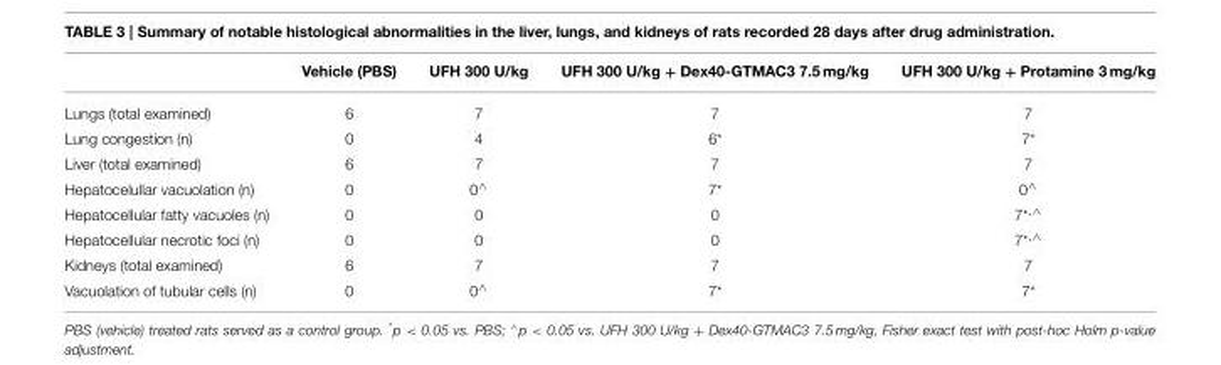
<table><thead><tr><td></td><td>Vehicle (PBS)</td><td>UFH 300 U/kg</td><td>UFH 300 U/kg + Dex40-GTMAC3 7.5 mg/kg</td><td>UFH 300 U/kg + Protamine 3 mg/kg</td></tr></thead><tbody><tr><td>Lungs (total examined)</td><td>6</td><td>7</td><td>7</td><td>7</td></tr><tr><td>Lung congestion (n)</td><td>0</td><td>4</td><td>6*</td><td>7*</td></tr><tr><td>Liver (total examined)</td><td>6</td><td>7</td><td>7</td><td>7</td></tr><tr><td>Hepatocelullar vacuolation (n)</td><td>0</td><td>0<sup>∧</sup></td><td>7*</td><td>0<sup>∧</sup></td></tr><tr><td>Hepatocellular fatty vacuoles (n)</td><td>0</td><td>0</td><td>0</td><td>7<sup>*,∧</sup></td></tr><tr><td>Hepatocellular necrotic foci (n)</td><td>0</td><td>0</td><td>0</td><td>7<sup>*,∧</sup></td></tr><tr><td>Kidneys (total examined)</td><td>6</td><td>7</td><td>7</td><td>7</td></tr><tr><td>Vacuolation of tubular cells (n)</td><td>0</td><td>0<sup>∧</sup></td><td>7*</td><td>7*</td></tr></tbody></table>